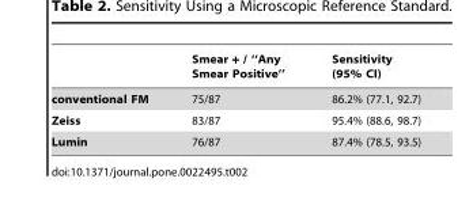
<table><thead><tr><td></td><td>Smear + / ‘‘Any Smear Positive’’</td><td>Sensitivity (95% CI)</td></tr></thead><tbody><tr><td>conventional FM</td><td>75/87</td><td>86.2% (77.1, 92.7)</td></tr><tr><td>Zeiss</td><td>83/87</td><td>95.4% (88.6, 98.7)</td></tr><tr><td>Lumin</td><td>76/87</td><td>87.4% (78.5, 93.5)</td></tr></tbody></table>